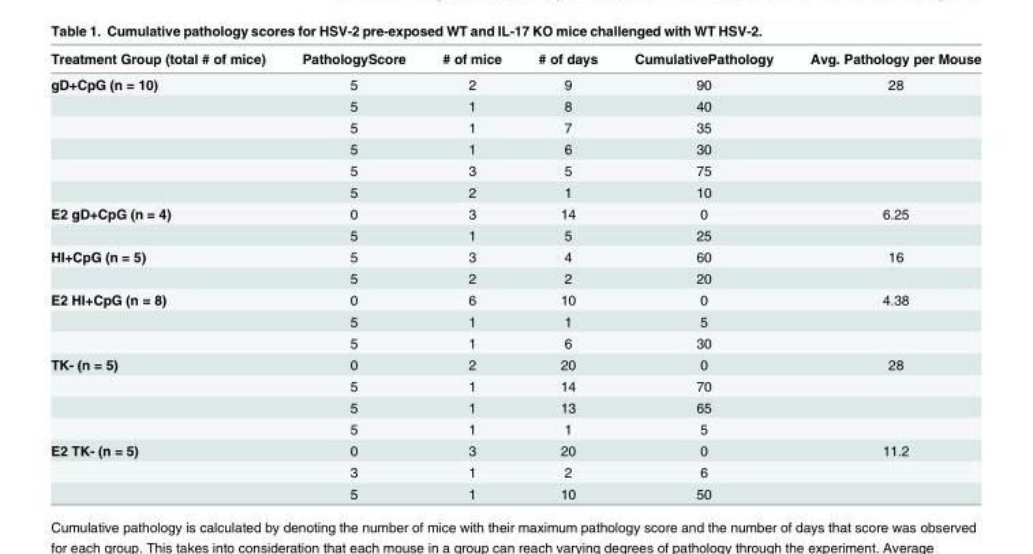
<table><thead><tr><td>Treatment Group (total # of mice)</td><td>PathologyScore</td><td># of mice</td><td># of days</td><td>CumulativePathology</td><td>Avg. Pathology per Mouse</td></tr></thead><tbody><tr><td rowspan="6">gD+CpG (n = 10)</td><td>5</td><td>2</td><td>9</td><td>90</td><td>28</td></tr><tr><td>5</td><td>1</td><td>8</td><td>40</td><td></td></tr><tr><td>5</td><td>1</td><td>7</td><td>35</td><td></td></tr><tr><td>5</td><td>1</td><td>6</td><td>30</td><td></td></tr><tr><td>5</td><td>3</td><td>5</td><td>75</td><td></td></tr><tr><td>5</td><td>2</td><td>1</td><td>10</td><td></td></tr><tr><td rowspan="2">E2 gD+CpG (n = 4)</td><td>0</td><td>3</td><td>14</td><td>0</td><td>6.25</td></tr><tr><td>5</td><td>1</td><td>5</td><td>25</td><td></td></tr><tr><td rowspan="2">HI+CpG (n = 5)</td><td>5</td><td>3</td><td>4</td><td>60</td><td>16</td></tr><tr><td>5</td><td>2</td><td>2</td><td>20</td><td></td></tr><tr><td rowspan="3">E2 HI+CpG (n = 8)</td><td>0</td><td>6</td><td>10</td><td>0</td><td>4.38</td></tr><tr><td>5</td><td>1</td><td>1</td><td>5</td><td></td></tr><tr><td>5</td><td>1</td><td>6</td><td>30</td><td></td></tr><tr><td rowspan="4">TK- (n = 5)</td><td>0</td><td>2</td><td>20</td><td>0</td><td>28</td></tr><tr><td>5</td><td>1</td><td>14</td><td>70</td><td></td></tr><tr><td>5</td><td>1</td><td>13</td><td>65</td><td></td></tr><tr><td>5</td><td>1</td><td>1</td><td>5</td><td></td></tr><tr><td rowspan="3">E2 TK- (n = 5)</td><td>0</td><td>3</td><td>20</td><td>0</td><td>11.2</td></tr><tr><td>3</td><td>1</td><td>2</td><td>6</td><td></td></tr><tr><td>5</td><td>1</td><td>10</td><td>50</td><td></td></tr></tbody></table>